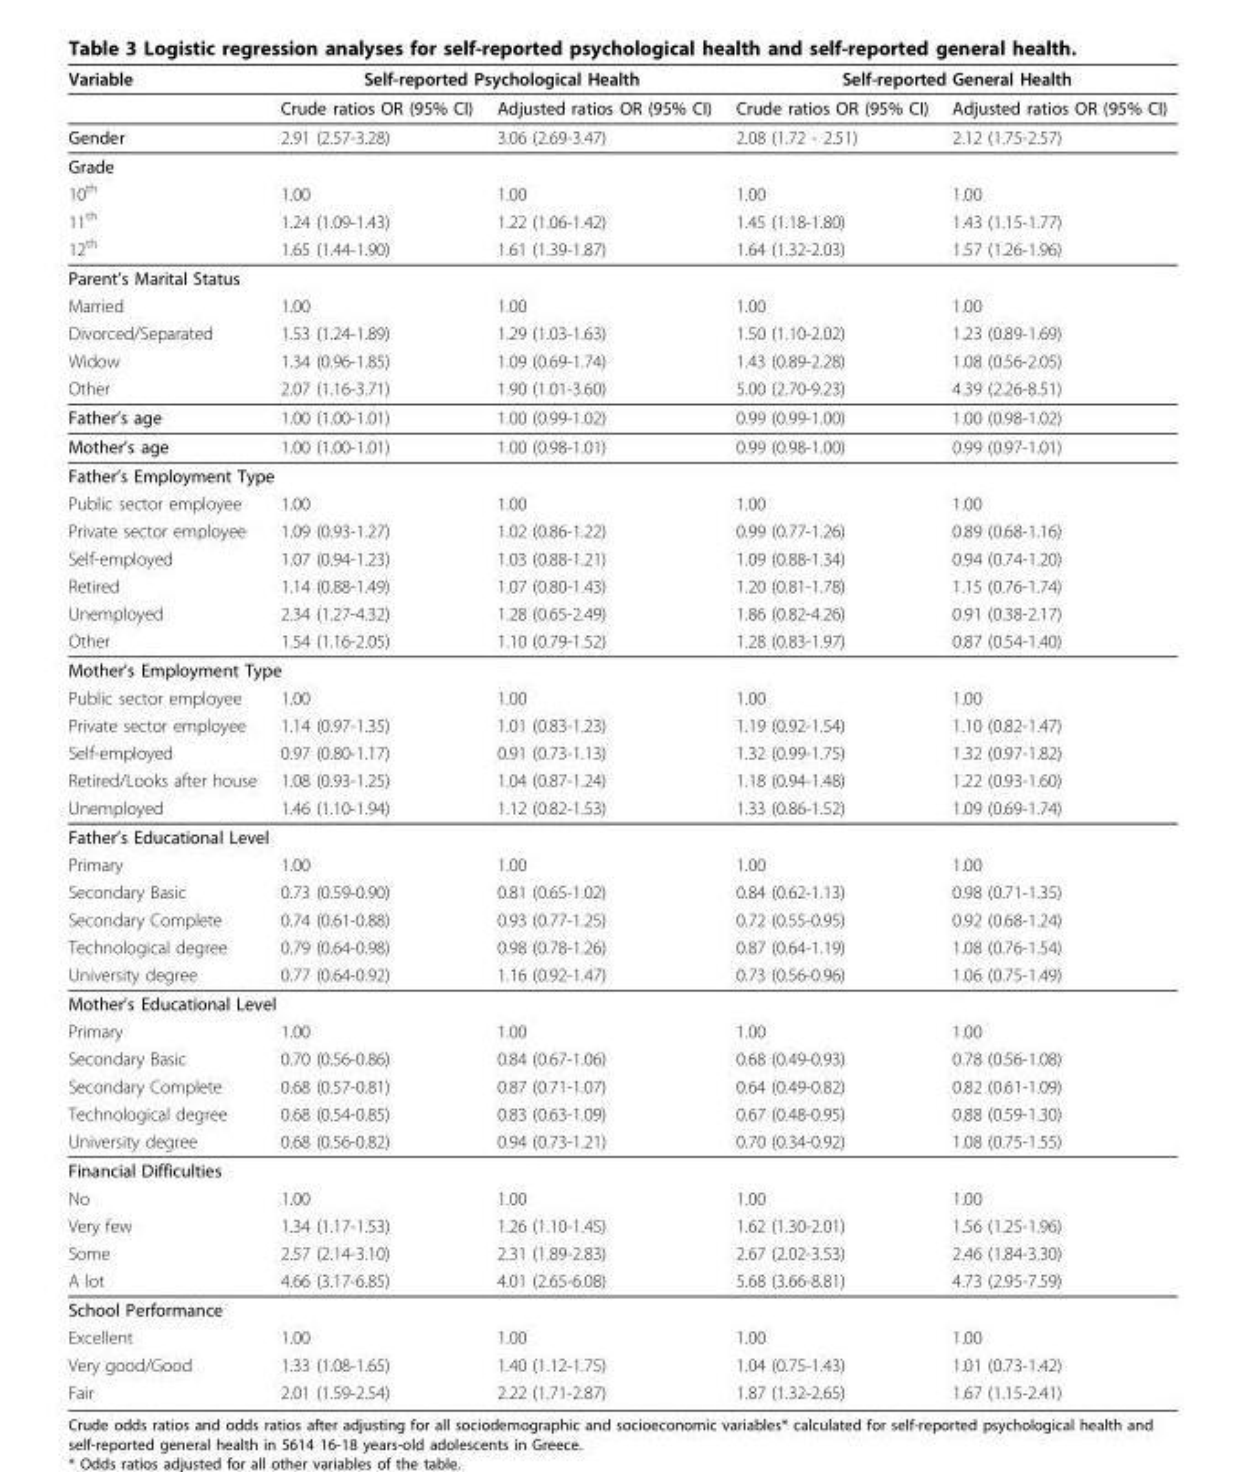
<table><thead><tr><td rowspan="2">Variable</td><td colspan="2">Self-reported Psychological Health</td><td colspan="2">Self-reported General Health</td></tr><tr><td>Crude ratios OR (95% CI)</td><td>Adjusted ratios OR (95% CI)</td><td>Crude ratios OR (95% CI)</td><td>Adjusted ratios OR (95% CI)</td></tr></thead><tbody><tr><td>Gender</td><td>2.91 (2.57-3.28)</td><td>3.06 (2.69-3.47)</td><td>2.08 (1.72 - 2.51)</td><td>2.12 (1.75-2.57)</td></tr><tr><td colspan="5">Grade</td></tr><tr><td>10<sup>th</sup></td><td>1.00</td><td>1.00</td><td>1.00</td><td>1.00</td></tr><tr><td>11<sup>th</sup></td><td>1.24 (1.09-1.43)</td><td>1.22 (1.06-1.42)</td><td>1.45 (1.18-1.80)</td><td>1.43 (1.15-1.77)</td></tr><tr><td>12<sup>th</sup></td><td>1.65 (1.44-1.90)</td><td>1.61 (1.39-1.87)</td><td>1.64 (1.32-2.03)</td><td>1.57 (1.26-1.96)</td></tr><tr><td colspan="5">Parent’s Marital Status</td></tr><tr><td>Married</td><td>1.00</td><td>1.00</td><td>1.00</td><td>1.00</td></tr><tr><td>Divorced/Separated</td><td>1.53 (1.24-1.89)</td><td>1.29 (1.03-1.63)</td><td>1.50 (1.10-2.02)</td><td>1.23 (0.89-1.69)</td></tr><tr><td>Widow</td><td>1.34 (0.96-1.85)</td><td>1.09 (0.69-1.74)</td><td>1.43 (0.89-2.28)</td><td>1.08 (0.56-2.05)</td></tr><tr><td>Other</td><td>2.07 (1.16-3.71)</td><td>1.90 (1.01-3.60)</td><td>5.00 (2.70-9.23)</td><td>4.39 (2.26-8.51)</td></tr><tr><td>Father’s age</td><td>1.00 (1.00-1.01)</td><td>1.00 (0.99-1.02)</td><td>0.99 (0.99-1.00)</td><td>1.00 (0.98-1.02)</td></tr><tr><td>Mother’s age</td><td>1.00 (1.00-1.01)</td><td>1.00 (0.98-1.01)</td><td>0.99 (0.98-1.00)</td><td>0.99 (0.97-1.01)</td></tr><tr><td colspan="5">Father’s Employment Type</td></tr><tr><td>Public sector employee</td><td>1.00</td><td>1.00</td><td>1.00</td><td>1.00</td></tr><tr><td>Private sector employee</td><td>1.09 (0.93-1.27)</td><td>1.02 (0.86-1.22)</td><td>0.99 (0.77-1.26)</td><td>0.89 (0.68-1.16)</td></tr><tr><td>Self-employed</td><td>1.07 (0.94-1.23)</td><td>1.03 (0.88-1.21)</td><td>1.09 (0.88-1.34)</td><td>0.94 (0.74-1.20)</td></tr><tr><td>Retired</td><td>1.14 (0.88-1.49)</td><td>1.07 (0.80-1.43)</td><td>1.20 (0.81-1.78)</td><td>1.15 (0.76-1.74)</td></tr><tr><td>Unemployed</td><td>2.34 (1.27-4.32)</td><td>1.28 (0.65-2.49)</td><td>1.86 (0.82-4.26)</td><td>0.91 (0.38-2.17)</td></tr><tr><td>Other</td><td>1.54 (1.16-2.05)</td><td>1.10 (0.79-1.52)</td><td>1.28 (0.83-1.97)</td><td>0.87 (0.54-1.40)</td></tr><tr><td colspan="5">Mother’s Employment Type</td></tr><tr><td>Public sector employee</td><td>1.00</td><td>1.00</td><td>1.00</td><td>1.00</td></tr><tr><td>Private sector employee</td><td>1.14 (0.97-1.35)</td><td>1.01 (0.83-1.23)</td><td>1.19 (0.92-1.54)</td><td>1.10 (0.82-1.47)</td></tr><tr><td>Self-employed</td><td>0.97 (0.80-1.17)</td><td>0.91 (0.73-1.13)</td><td>1.32 (0.99-1.75)</td><td>1.32 (0.97-1.82)</td></tr><tr><td>Retired/Looks after house</td><td>1.08 (0.93-1.25)</td><td>1.04 (0.87-1.24)</td><td>1.18 (0.94-1.48)</td><td>1.22 (0.93-1.60)</td></tr><tr><td>Unemployed</td><td>1.46 (1.10-1.94)</td><td>1.12 (0.82-1.53)</td><td>1.33 (0.86-1.52)</td><td>1.09 (0.69-1.74)</td></tr><tr><td colspan="5">Father’s Educational Level</td></tr><tr><td>Primary</td><td>1.00</td><td>1.00</td><td>1.00</td><td>1.00</td></tr><tr><td>Secondary Basic</td><td>0.73 (0.59-0.90)</td><td>0.81 (0.65-1.02)</td><td>0.84 (0.62-1.13)</td><td>0.98 (0.71-1.35)</td></tr><tr><td>Secondary Complete</td><td>0.74 (0.61-0.88)</td><td>0.93 (0.77-1.25)</td><td>0.72 (0.55-0.95)</td><td>0.92 (0.68-1.24)</td></tr><tr><td>Technological degree</td><td>0.79 (0.64-0.98)</td><td>0.98 (0.78-1.26)</td><td>0.87 (0.64-1.19)</td><td>1.08 (0.76-1.54)</td></tr><tr><td>University degree</td><td>0.77 (0.64-0.92)</td><td>1.16 (0.92-1.47)</td><td>0.73 (0.56-0.96)</td><td>1.06 (0.75-1.49)</td></tr><tr><td colspan="5">Mother’s Educational Level</td></tr><tr><td>Primary</td><td>1.00</td><td>1.00</td><td>1.00</td><td>1.00</td></tr><tr><td>Secondary Basic</td><td>0.70 (0.56-0.86)</td><td>0.84 (0.67-1.06)</td><td>0.68 (0.49-0.93)</td><td>0.78 (0.56-1.08)</td></tr><tr><td>Secondary Complete</td><td>0.68 (0.57-0.81)</td><td>0.87 (0.71-1.07)</td><td>0.64 (0.49-0.82)</td><td>0.82 (0.61-1.09)</td></tr><tr><td>Technological degree</td><td>0.68 (0.54-0.85)</td><td>0.83 (0.63-1.09)</td><td>0.67 (0.48-0.95)</td><td>0.88 (0.59-1.30)</td></tr><tr><td>University degree</td><td>0.68 (0.56-0.82)</td><td>0.94 (0.73-1.21)</td><td>0.70 (0.34-0.92)</td><td>1.08 (0.75-1.55)</td></tr><tr><td colspan="5">Financial Difficulties</td></tr><tr><td>No</td><td>1.00</td><td>1.00</td><td>1.00</td><td>1.00</td></tr><tr><td>Very few</td><td>1.34 (1.17-1.53)</td><td>1.26 (1.10-1.45)</td><td>1.62 (1.30-2.01)</td><td>1.56 (1.25-1.96)</td></tr><tr><td>Some</td><td>2.57 (2.14-3.10)</td><td>2.31 (1.89-2.83)</td><td>2.67 (2.02-3.53)</td><td>2.46 (1.84-3.30)</td></tr><tr><td>A lot</td><td>4.66 (3.17-6.85)</td><td>4.01 (2.65-6.08)</td><td>5.68 (3.66-8.81)</td><td>4.73 (2.95-7.59)</td></tr><tr><td colspan="5">School Performance</td></tr><tr><td>Excellent</td><td>1.00</td><td>1.00</td><td>1.00</td><td>1.00</td></tr><tr><td>Very good/Good</td><td>1.33 (1.08-1.65)</td><td>1.40 (1.12-1.75)</td><td>1.04 (0.75-1.43)</td><td>1.01 (0.73-1.42)</td></tr><tr><td>Fair</td><td>2.01 (1.59-2.54)</td><td>2.22 (1.71-2.87)</td><td>1.87 (1.32-2.65)</td><td>1.67 (1.15-2.41)</td></tr></tbody></table>